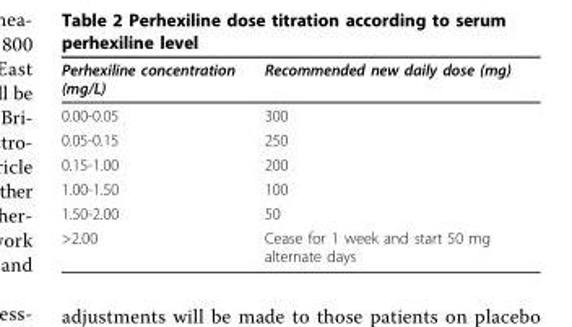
<table><thead><tr><td>Perhexiline concentration (mg/L)</td><td>Recommended new daily dose (mg)</td></tr></thead><tbody><tr><td>0.00-0.05</td><td>300</td></tr><tr><td>0.05-0.15</td><td>250</td></tr><tr><td>0.15-1.00</td><td>200</td></tr><tr><td>1.00-1.50</td><td>100</td></tr><tr><td>1.50-2.00</td><td>50</td></tr><tr><td>&gt;2.00</td><td>Cease for 1 week and start 50 mg alternate days</td></tr></tbody></table>